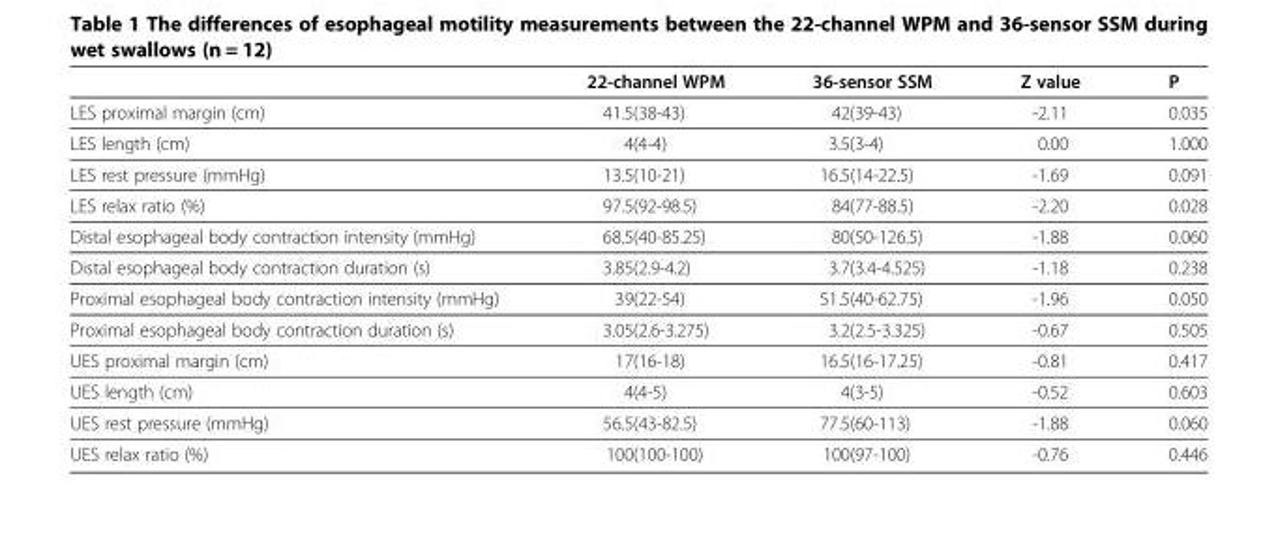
<table><thead><tr><td></td><td>22-channel WPM</td><td>36-sensor SSM</td><td>Z value</td><td>P</td></tr></thead><tbody><tr><td>LES proximal margin (cm)</td><td>41.5(38-43)</td><td>42(39-43)</td><td>-2.11</td><td>0.035</td></tr><tr><td>LES length (cm)</td><td>4(4-4)</td><td>3.5(3-4)</td><td>0.00</td><td>1.000</td></tr><tr><td>LES rest pressure (mmHg)</td><td>13.5(10-21)</td><td>16.5(14-22.5)</td><td>-1.69</td><td>0.091</td></tr><tr><td>LES relax ratio (%)</td><td>97.5(92-98.5)</td><td>84(77-88.5)</td><td>-2.20</td><td>0.028</td></tr><tr><td>Distal esophageal body contraction intensity (mmHg)</td><td>68.5(40-85.25)</td><td>80(50-126.5)</td><td>-1.88</td><td>0.060</td></tr><tr><td>Distal esophageal body contraction duration (s)</td><td>3.85(2.9-4.2)</td><td>3.7(3.4-4.525)</td><td>-1.18</td><td>0.238</td></tr><tr><td>Proximal esophageal body contraction intensity (mmHg)</td><td>39(22-54)</td><td>51.5(40-62.75)</td><td>-1.96</td><td>0.050</td></tr><tr><td>Proximal esophageal body contraction duration (s)</td><td>3.05(2.6-3.275)</td><td>3.2(2.5-3.325)</td><td>-0.67</td><td>0.505</td></tr><tr><td>UES proximal margin (cm)</td><td>17(16-18)</td><td>16.5(16-17.25)</td><td>-0.81</td><td>0.417</td></tr><tr><td>UES length (cm)</td><td>4(4-5)</td><td>4(3-5)</td><td>-0.52</td><td>0.603</td></tr><tr><td>UES rest pressure (mmHg)</td><td>56.5(43-82.5)</td><td>77.5(60-113)</td><td>-1.88</td><td>0.060</td></tr><tr><td>UES relax ratio (%)</td><td>100(100-100)</td><td>100(97-100)</td><td>-0.76</td><td>0.446</td></tr></tbody></table>